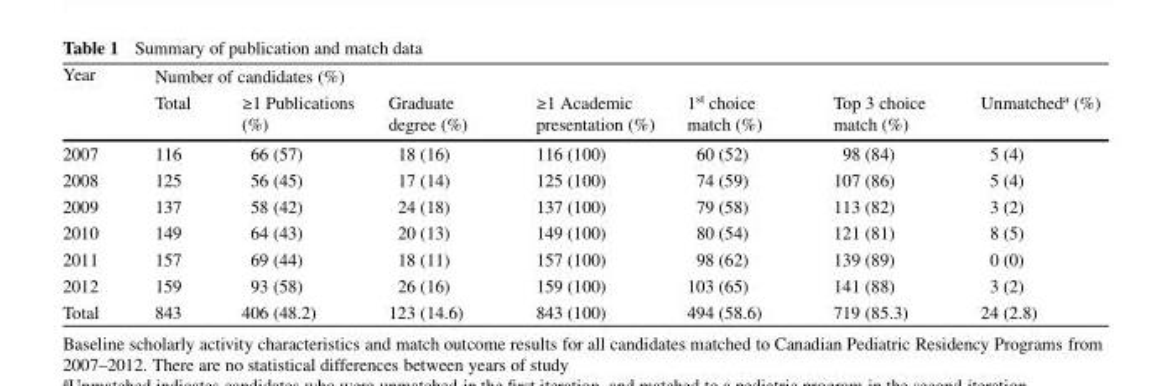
<table><thead><tr><td rowspan="2">Year</td><td colspan="7">Number of candidates (%)</td></tr><tr><td>Total</td><td>≥1 Publications (%)</td><td>Graduate degree (%)</td><td>≥1 Academic presentation (%)</td><td>1<sup>st</sup> choice match (%)</td><td>Top 3 choice match (%)</td><td>Unmatched<sup>a</sup> (%)</td></tr></thead><tbody><tr><td>2007</td><td>116</td><td>66 (57)</td><td>18 (16)</td><td>116 (100)</td><td>60 (52)</td><td>98 (84)</td><td>5 (4)</td></tr><tr><td>2008</td><td>125</td><td>56 (45)</td><td>17 (14)</td><td>125 (100)</td><td>74 (59)</td><td>107 (86)</td><td>5 (4)</td></tr><tr><td>2009</td><td>137</td><td>58 (42)</td><td>24 (18)</td><td>137 (100)</td><td>79 (58)</td><td>113 (82)</td><td>3 (2)</td></tr><tr><td>2010</td><td>149</td><td>64 (43)</td><td>20 (13)</td><td>149 (100)</td><td>80 (54)</td><td>121 (81)</td><td>8 (5)</td></tr><tr><td>2011</td><td>157</td><td>69 (44)</td><td>18 (11)</td><td>157 (100)</td><td>98 (62)</td><td>139 (89)</td><td>0 (0)</td></tr><tr><td>2012</td><td>159</td><td>93 (58)</td><td>26 (16)</td><td>159 (100)</td><td>103 (65)</td><td>141 (88)</td><td>3 (2)</td></tr><tr><td>Total</td><td>843</td><td>406 (48.2)</td><td>123 (14.6)</td><td>843 (100)</td><td>494 (58.6)</td><td>719 (85.3)</td><td>24 (2.8)</td></tr></tbody></table>